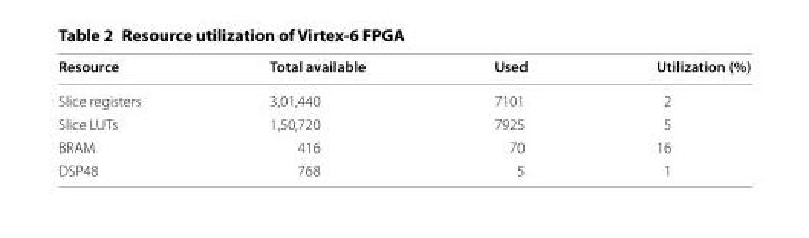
<table><thead><tr><td>Resource</td><td>Total available</td><td>Used</td><td>Utilization (%)</td></tr></thead><tbody><tr><td>Slice registers</td><td>3,01,440</td><td>7101</td><td>2</td></tr><tr><td>Slice LUTs</td><td>1,50,720</td><td>7925</td><td>5</td></tr><tr><td>BRAM</td><td>416</td><td>70</td><td>16</td></tr><tr><td>DSP48</td><td>768</td><td>5</td><td>1</td></tr></tbody></table>